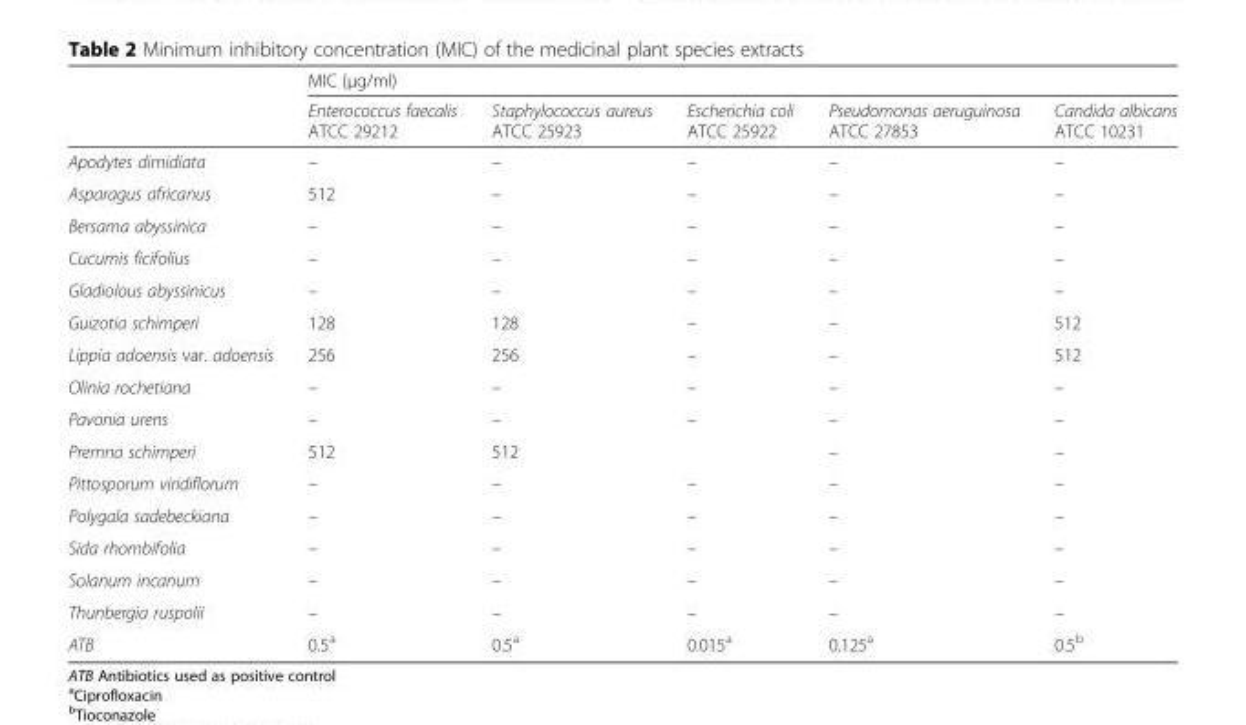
<table><thead><tr><td rowspan="2"></td><td colspan="5">MIC (μg/ml)</td></tr><tr><td>Enterococcus faecalis ATCC 29212</td><td>Staphylococcus aureus ATCC 25923</td><td>Escherichia coli ATCC 25922</td><td>Pseudomonas aeruguinosa ATCC 27853</td><td>Candida albicans ATCC 10231</td></tr></thead><tbody><tr><td>Apodytes dimidiata</td><td>–</td><td>–</td><td>–</td><td>–</td><td>–</td></tr><tr><td>Asparagus africanus</td><td>512</td><td>–</td><td>–</td><td>–</td><td>–</td></tr><tr><td>Bersama abyssinica</td><td>–</td><td>–</td><td>–</td><td>–</td><td>–</td></tr><tr><td>Cucumis ficifolius</td><td>–</td><td>–</td><td>–</td><td>–</td><td>–</td></tr><tr><td>Gladiolous abyssinicus</td><td>–</td><td>–</td><td>–</td><td>–</td><td>–</td></tr><tr><td>Guizotia schimperi</td><td>128</td><td>128</td><td>–</td><td>–</td><td>512</td></tr><tr><td>Lippia adoensis var. adoensis</td><td>256</td><td>256</td><td>–</td><td>–</td><td>512</td></tr><tr><td>Olinia rochetiana</td><td>–</td><td>–</td><td>–</td><td>–</td><td>–</td></tr><tr><td>Pavonia urens</td><td>–</td><td>–</td><td>–</td><td>–</td><td>–</td></tr><tr><td>Premna schimperi</td><td>512</td><td>512</td><td></td><td>–</td><td>–</td></tr><tr><td>Pittosporum viridiflorum</td><td>–</td><td>–</td><td>–</td><td>–</td><td>–</td></tr><tr><td>Polygala sadebeckiana</td><td>–</td><td>–</td><td>–</td><td>–</td><td>–</td></tr><tr><td>Sida rhombifolia</td><td>–</td><td>–</td><td>–</td><td>–</td><td>–</td></tr><tr><td>Solanum incanum</td><td>–</td><td>–</td><td>–</td><td>–</td><td>–</td></tr><tr><td>Thunbergia ruspolii</td><td>–</td><td>–</td><td>–</td><td>–</td><td>–</td></tr><tr><td>ATB</td><td>0.5<sup>a</sup></td><td>0.5<sup>a</sup></td><td>0.015<sup>a</sup></td><td>0.125<sup>a</sup></td><td>0.5<sup>b</sup></td></tr></tbody></table>